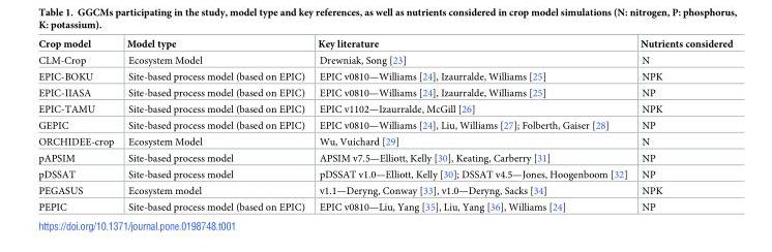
<table><thead><tr><td>Crop model</td><td>Model type</td><td>Key literature</td><td>Nutrients considered</td></tr></thead><tbody><tr><td>CLM-Crop</td><td>Ecosystem Model</td><td>Drewniak, Song [23]</td><td>N</td></tr><tr><td>EPIC-BOKU</td><td>Site-based process model (based on EPIC)</td><td>EPIC v0810—Williams [24], Izaurralde, Williams [25]</td><td>NPK</td></tr><tr><td>EPIC-IIASA</td><td>Site-based process model (based on EPIC)</td><td>EPIC v0810—Williams [24], Izaurralde, Williams [25]</td><td>NP</td></tr><tr><td>EPIC-TAMU</td><td>Site-based process model (based on EPIC)</td><td>EPIC v1102—Izaurralde, McGill [26]</td><td>NPK</td></tr><tr><td>GEPIC</td><td>Site-based process model (based on EPIC)</td><td>EPIC v0810—Williams [24], Liu, Williams [27]; Folberth, Gaiser [28]</td><td>NP</td></tr><tr><td>ORCHIDEE-crop</td><td>Ecosystem Model</td><td>Wu, Vuichard [29]</td><td>N</td></tr><tr><td>pAPSIM</td><td>Site-based process model</td><td>APSIM v7.5—Elliott, Kelly [30], Keating, Carberry [31]</td><td>NP</td></tr><tr><td>pDSSAT</td><td>Site-based process model</td><td>pDSSAT v1.0—Elliott, Kelly [30]; DSSAT v4.5—Jones, Hoogenboom [32]</td><td>NP</td></tr><tr><td>PEGASUS</td><td>Ecosystem model</td><td>v1.1—Deryng, Conway [33], v1.0—Deryng, Sacks [34]</td><td>NPK</td></tr><tr><td>PEPIC</td><td>Site-based process model (based on EPIC)</td><td>EPIC v0810—Liu, Yang [35], Liu, Yang [36], Williams [24]</td><td>NP</td></tr></tbody></table>